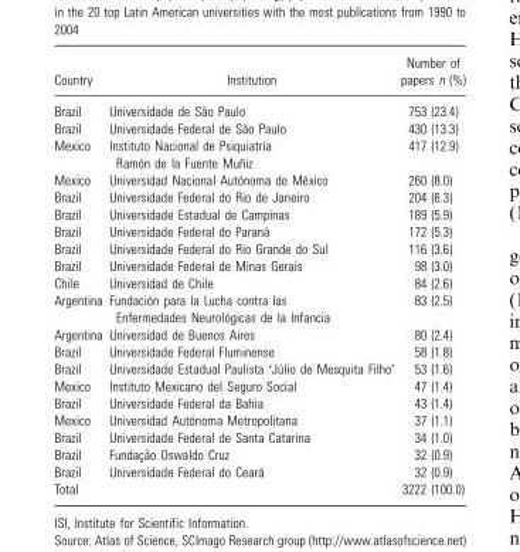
<table><thead><tr><td>Country</td><td>Institution</td><td>Number of papers n (%)</td></tr></thead><tbody><tr><td>Brazil</td><td>Universidade de S¼o Paulo</td><td>753 (23.4)</td></tr><tr><td>Brazil</td><td>Universidade Federal de S¼o Paulo</td><td>430 (13.3)</td></tr><tr><td>Mexico</td><td>Instituto Nacional de Psiquiatr�a Ram�n de la Fuente MuÇiz</td><td>417 (12.9)</td></tr><tr><td>Mexico</td><td>Universidad Nacional Autónoma de México</td><td>260 (8.0)</td></tr><tr><td>Brazil</td><td>Universidade Federal do Rio de Janeiro</td><td>204 (6.3)</td></tr><tr><td>Brazil</td><td>Universidade Estadual de Campinas</td><td>189 (5.9)</td></tr><tr><td>Brazil</td><td>Universidade Federal do Paraná</td><td>172 (5.3)</td></tr><tr><td>Brazil</td><td>Universidade Federal do Rio Grande do Sul</td><td>116 (3.6)</td></tr><tr><td>Brazil</td><td>Universidade Federal de Minas Gerais</td><td>98 (3.0)</td></tr><tr><td>Chile</td><td>Universidad de Chile</td><td>84 (2.6)</td></tr><tr><td>Argentina</td><td>Fundación para la Lucha contra las Enfermedades Neurológicas de la Infancia</td><td>83 (2.5)</td></tr><tr><td>Argentina</td><td>Universidad de Buenos Aires</td><td>80 (2.4)</td></tr><tr><td>Brazil</td><td>Universidade Federal Fluminense</td><td>58 (1.8)</td></tr><tr><td>Brazil</td><td>Universidade Estadual Paulista �Jffllio de Mesquita Filho�</td><td>53 (1.6)</td></tr><tr><td>Mexico</td><td>Instituto Mexicano del Seguro Social</td><td>47 (1.4)</td></tr><tr><td>Brazil</td><td>Universidade Federal da Bahia</td><td>43 (1.4)</td></tr><tr><td>Mexico</td><td>Universidad Autónoma Metropolitana</td><td>37 (1.1)</td></tr><tr><td>Brazil</td><td>Universidade Federal de Santa Catarina</td><td>34 (1.0)</td></tr><tr><td>Brazil</td><td>FundaÅ¼o Oswaldo Cruz</td><td>32 (0.9)</td></tr><tr><td>Brazil</td><td>Universidade Federal do Ceará</td><td>32 (0.9)</td></tr><tr><td colspan="2">Total</td><td>3222 (100.0)</td></tr></tbody></table>